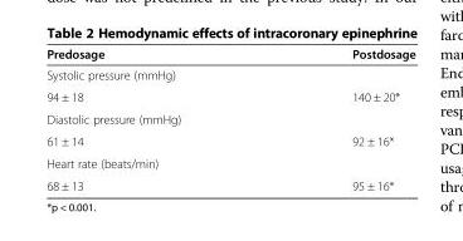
<table><thead><tr><td>Predosage</td><td>Postdosage</td></tr></thead><tbody><tr><td colspan="2">Systolic pressure (mmHg)</td></tr><tr><td>94 ± 18</td><td>140 ± 20*</td></tr><tr><td colspan="2">Diastolic pressure (mmHg)</td></tr><tr><td>61 ± 14</td><td>92 ± 16*</td></tr><tr><td colspan="2">Heart rate (beats/min)</td></tr><tr><td>68 ± 13</td><td>95 ± 16*</td></tr></tbody></table>